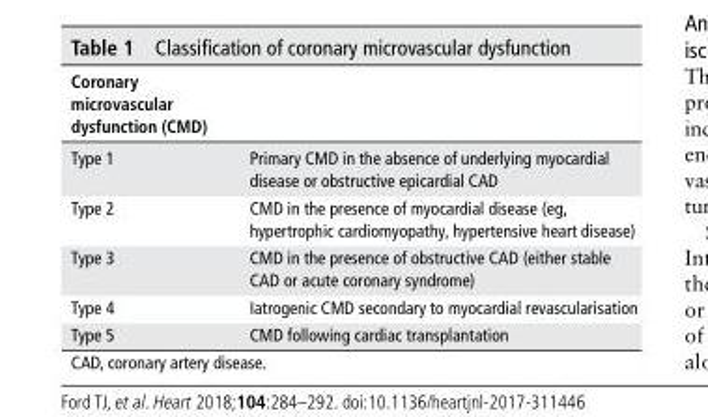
<table><thead><tr><td>coronary microvascular dysfunction (cMd)</td><td></td></tr></thead><tbody><tr><td>Type 1</td><td>Primary CMD in the absence of underlying myocardial disease or obstructive epicardial CAD</td></tr><tr><td>Type 2</td><td>CMD in the presence of myocardial disease (eg, hypertrophic cardiomyopathy, hypertensive heart disease)</td></tr><tr><td>Type 3</td><td>CMD in the presence of obstructive CAD (either stable CAD or acute coronary syndrome)</td></tr><tr><td>Type 4</td><td>Iatrogenic CMD secondary to myocardial revascularisation</td></tr><tr><td>Type 5</td><td>CMD following cardiac transplantation</td></tr></tbody></table>